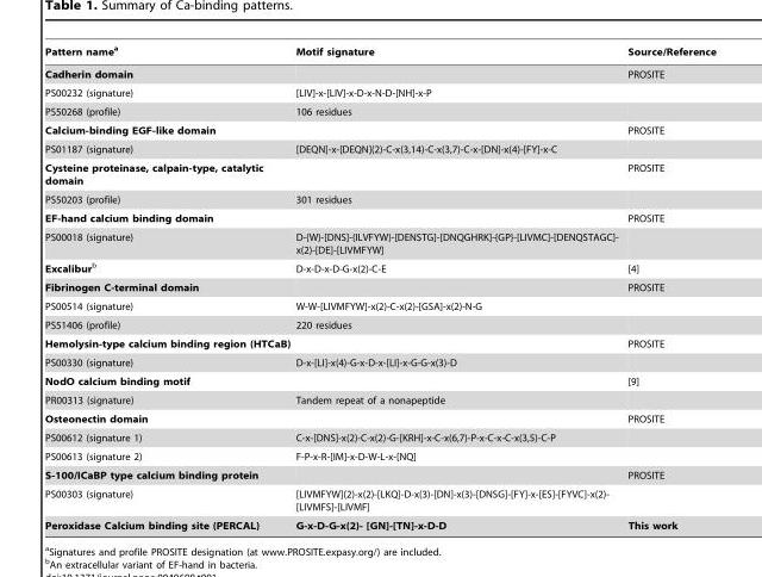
<table><thead><tr><td>Pattern name<sup>a</sup></td><td>Motif signature</td><td>Source/Reference</td></tr></thead><tbody><tr><td>Cadherin domain</td><td></td><td>PROSITE</td></tr><tr><td>PS00232 (signature)</td><td>[LIV]-x-[LIV]-x-D-x-N-D-[NH]-x-P</td><td></td></tr><tr><td>PS50268 (profile)</td><td>106 residues</td><td></td></tr><tr><td>Calcium-binding EGF-like domain</td><td></td><td>PROSITE</td></tr><tr><td>PS01187 (signature)</td><td>[DEQN]-x-[DEQN](2)-C-x(3,14)-C-x(3,7)-C-x-[DN]-x(4)-[FY]-x-C</td><td></td></tr><tr><td>Cysteine proteinase, calpain-type, catalytic domain</td><td></td><td>PROSITE</td></tr><tr><td>PS50203 (profile)</td><td>301 residues</td><td></td></tr><tr><td>EF-hand calcium binding domain</td><td></td><td>PROSITE</td></tr><tr><td>PS00018 (signature)</td><td>D-{W}-[DNS]-{ILVFYW}-[DENSTG]-[DNQGHRK]-{GP}-[LIVMC]-[DENQSTAGC]- x(2)-[DE]-[LIVMFYW]</td><td></td></tr><tr><td>Excaliburb</td><td>D-x-D-x-D-G-x(2)-C-E</td><td>[4]</td></tr><tr><td>Fibrinogen C-terminal domain</td><td></td><td>PROSITE</td></tr><tr><td>PS00514 (signature)</td><td>W-W-[LIVMFYW]-x(2)-C-x(2)-[GSA]-x(2)-N-G</td><td></td></tr><tr><td>PS51406 (profile)</td><td>220 residues</td><td></td></tr><tr><td>Hemolysin-type calcium binding region (HTCaB)</td><td></td><td>PROSITE</td></tr><tr><td>PS00330 (signature)</td><td>D-x-[LI]-x(4)-G-x-D-x-[LI]-x-G-G-x(3)-D</td><td></td></tr><tr><td>NodO calcium binding motif</td><td></td><td>[9]</td></tr><tr><td>PR00313 (signature)</td><td>Tandem repeat of a nonapeptide</td><td></td></tr><tr><td>Osteonectin domain</td><td></td><td>PROSITE</td></tr><tr><td>PS00612 (signature 1)</td><td>C-x-[DNS]-x(2)-C-x(2)-G-[KRH]-x-C-x(6,7)-P-x-C-x-C-x(3,5)-C-P</td><td></td></tr><tr><td>PS00613 (signature 2)</td><td>F-P-x-R-[IM]-x-D-W-L-x-[NQ]</td><td></td></tr><tr><td>S-100/ICaBP type calcium binding protein</td><td></td><td>PROSITE</td></tr><tr><td>PS00303 (signature)</td><td>[LIVMFYW](2)-x(2)-[LKQ]-D-x(3)-[DN]-x(3)-[DNSG]-[FY]-x-[ES]-[FYVC]-x(2)- [LIVMFS]-[LIVMF]</td><td></td></tr><tr><td>Peroxidase Calcium binding site (PERCAL)</td><td>G-x-D-G-x(2)- [GN]-[TN]-x-D-D</td><td>This work</td></tr></tbody></table>